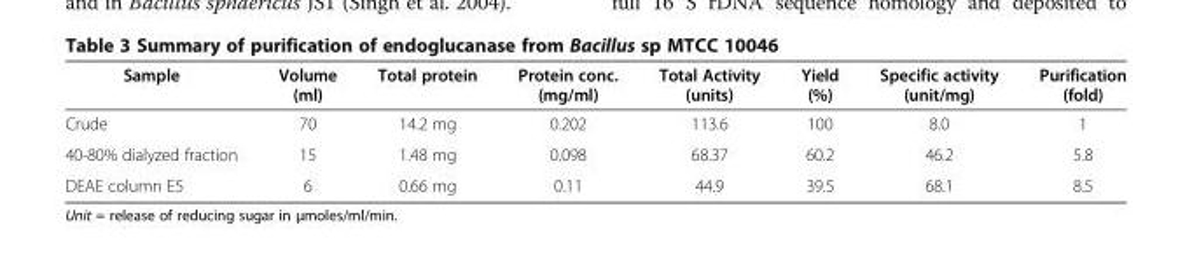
<table><thead><tr><td>Sample</td><td>Volume (ml)</td><td>Total protein</td><td>Protein conc. (mg/ml)</td><td>Total Activity (units)</td><td>Yield (%)</td><td>Specific activity (unit/mg)</td><td>Purification (fold)</td></tr></thead><tbody><tr><td>Crude</td><td>70</td><td>14.2 mg</td><td>0.202</td><td>113.6</td><td>100</td><td>8.0</td><td>1</td></tr><tr><td>40-80% dialyzed fraction</td><td>15</td><td>1.48 mg</td><td>0.098</td><td>68.37</td><td>60.2</td><td>46.2</td><td>5.8</td></tr><tr><td>DEAE column E5</td><td>6</td><td>0.66 mg</td><td>0.11</td><td>44.9</td><td>39.5</td><td>68.1</td><td>8.5</td></tr></tbody></table>